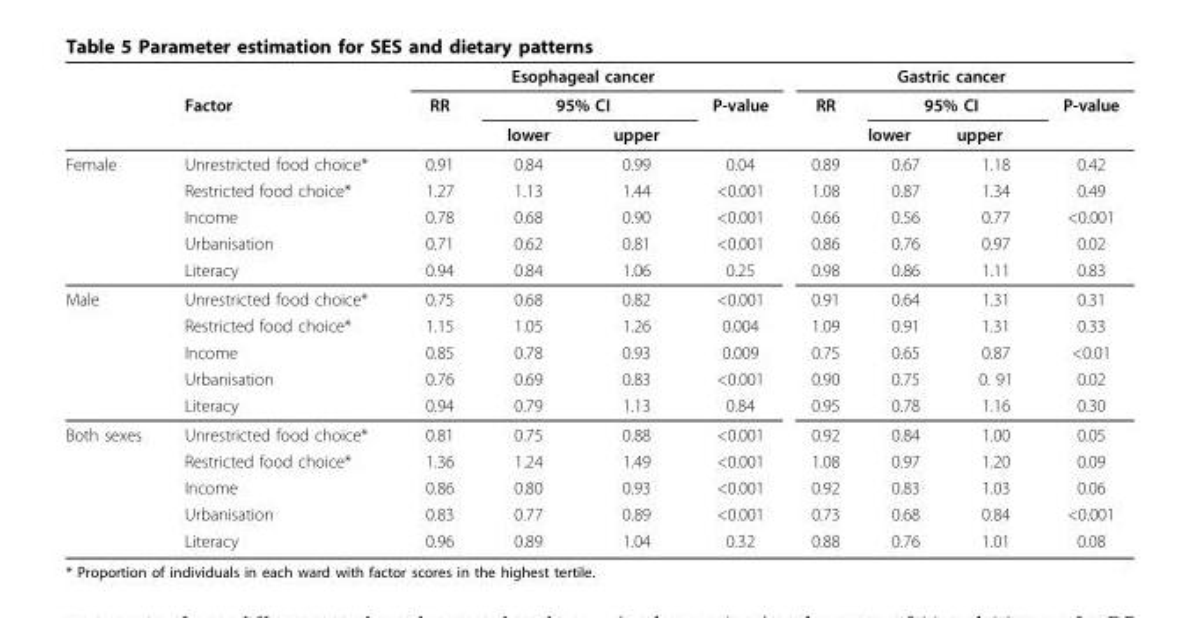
<table><thead><tr><td rowspan="3"></td><td rowspan="3">Factor</td><td rowspan="3">RR</td><td rowspan="2" colspan="2">Esophageal cancer 95% CI</td><td rowspan="3">P-value</td><td rowspan="3">RR</td><td rowspan="2" colspan="2">Gastric cancer 95% CI</td><td rowspan="3">P-value</td></tr><tr></tr><tr><td>lower</td><td>upper</td><td>lower</td><td>upper</td></tr></thead><tbody><tr><td rowspan="5">Female</td><td>Unrestricted food choice*</td><td>0.91</td><td>0.84</td><td>0.99</td><td>0.04</td><td>0.89</td><td>0.67</td><td>1.18</td><td>0.42</td></tr><tr><td>Restricted food choice*</td><td>1.27</td><td>1.13</td><td>1.44</td><td>&lt;0.001</td><td>1.08</td><td>0.87</td><td>1.34</td><td>0.49</td></tr><tr><td>Income</td><td>0.78</td><td>0.68</td><td>0.90</td><td>&lt;0.001</td><td>0.66</td><td>0.56</td><td>0.77</td><td>&lt;0.001</td></tr><tr><td>Urbanisation</td><td>0.71</td><td>0.62</td><td>0.81</td><td>&lt;0.001</td><td>0.86</td><td>0.76</td><td>0.97</td><td>0.02</td></tr><tr><td>Literacy</td><td>0.94</td><td>0.84</td><td>1.06</td><td>0.25</td><td>0.98</td><td>0.86</td><td>1.11</td><td>0.83</td></tr><tr><td rowspan="5">Male</td><td>Unrestricted food choice*</td><td>0.75</td><td>0.68</td><td>0.82</td><td>&lt;0.001</td><td>0.91</td><td>0.64</td><td>1.31</td><td>0.31</td></tr><tr><td>Restricted food choice*</td><td>1.15</td><td>1.05</td><td>1.26</td><td>0.004</td><td>1.09</td><td>0.91</td><td>1.31</td><td>0.33</td></tr><tr><td>Income</td><td>0.85</td><td>0.78</td><td>0.93</td><td>0.009</td><td>0.75</td><td>0.65</td><td>0.87</td><td>&lt;0.01</td></tr><tr><td>Urbanisation</td><td>0.76</td><td>0.69</td><td>0.83</td><td>&lt;0.001</td><td>0.90</td><td>0.75</td><td>0. 91</td><td>0.02</td></tr><tr><td>Literacy</td><td>0.94</td><td>0.79</td><td>1.13</td><td>0.84</td><td>0.95</td><td>0.78</td><td>1.16</td><td>0.30</td></tr><tr><td rowspan="5">Both sexes</td><td>Unrestricted food choice*</td><td>0.81</td><td>0.75</td><td>0.88</td><td>&lt;0.001</td><td>0.92</td><td>0.84</td><td>1.00</td><td>0.05</td></tr><tr><td>Restricted food choice*</td><td>1.36</td><td>1.24</td><td>1.49</td><td>&lt;0.001</td><td>1.08</td><td>0.97</td><td>1.20</td><td>0.09</td></tr><tr><td>Income</td><td>0.86</td><td>0.80</td><td>0.93</td><td>&lt;0.001</td><td>0.92</td><td>0.83</td><td>1.03</td><td>0.06</td></tr><tr><td>Urbanisation</td><td>0.83</td><td>0.77</td><td>0.89</td><td>&lt;0.001</td><td>0.73</td><td>0.68</td><td>0.84</td><td>&lt;0.001</td></tr><tr><td>Literacy</td><td>0.96</td><td>0.89</td><td>1.04</td><td>0.32</td><td>0.88</td><td>0.76</td><td>1.01</td><td>0.08</td></tr></tbody></table>